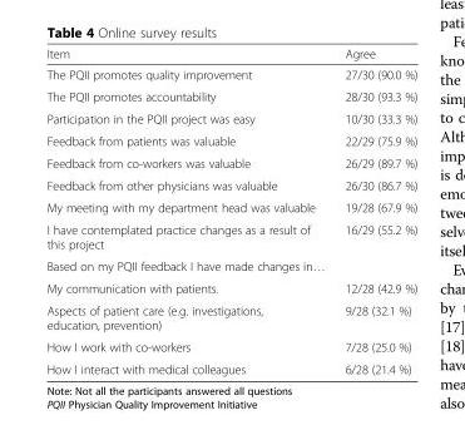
<table><thead><tr><td>Item</td><td>Agree</td></tr></thead><tbody><tr><td>The PQII promotes quality improvement</td><td>27/30 (90.0 %)</td></tr><tr><td>The PQII promotes accountability</td><td>28/30 (93.3 %)</td></tr><tr><td>Participation in the PQII project was easy</td><td>10/30 (33.3 %)</td></tr><tr><td>Feedback from patients was valuable</td><td>22/29 (75.9 %)</td></tr><tr><td>Feedback from co-workers was valuable</td><td>26/29 (89.7 %)</td></tr><tr><td>Feedback from other physicians was valuable</td><td>26/30 (86.7 %)</td></tr><tr><td>My meeting with my department head was valuable</td><td>19/28 (67.9 %)</td></tr><tr><td>I have contemplated practice changes as a result of this project</td><td>16/29 (55.2 %)</td></tr><tr><td colspan="2">Based on my PQII feedback I have made changes in…</td></tr><tr><td>My communication with patients.</td><td>12/28 (42.9 %)</td></tr><tr><td>Aspects of patient care (e.g. investigations, education, prevention)</td><td>9/28 (32.1 %)</td></tr><tr><td>How I work with co-workers</td><td>7/28 (25.0 %)</td></tr><tr><td>How I interact with medical colleagues</td><td>6/28 (21.4 %)</td></tr></tbody></table>